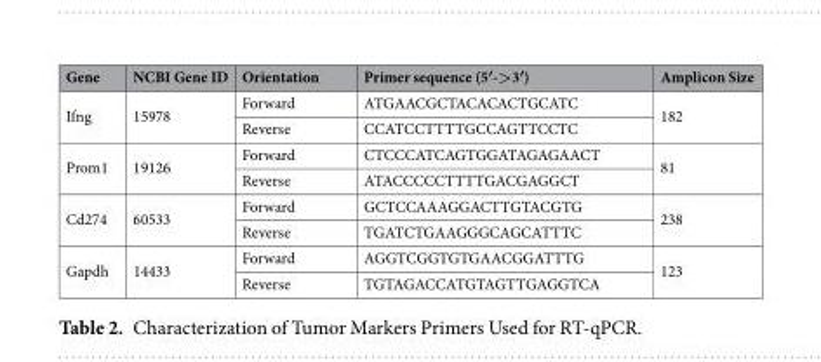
<table><thead><tr><td>Gene</td><td>NCBI Gene ID</td><td>Orientation</td><td>Primer sequence (5′-&gt;3′)</td><td>Amplicon Size</td></tr></thead><tbody><tr><td rowspan="2">Ifng</td><td rowspan="2">15978</td><td>Forward</td><td>ATGAACGCTACACACTGCATC</td><td rowspan="2">182</td></tr><tr><td>Reverse</td><td>CCATCCTTTTGCCAGTTCCTC</td></tr><tr><td rowspan="2">Prom1</td><td rowspan="2">19126</td><td>Forward</td><td>CTCCCATCAGTGGATAGAGAACT</td><td rowspan="2">81</td></tr><tr><td>Reverse</td><td>ATACCCCCTTTTGACGAGGCT</td></tr><tr><td rowspan="2">Cd274</td><td rowspan="2">60533</td><td>Forward</td><td>GCTCCAAAGGACTTGTACGTG</td><td rowspan="2">238</td></tr><tr><td>Reverse</td><td>TGATCTGAAGGGCAGCATTTC</td></tr><tr><td rowspan="2">Gapdh</td><td rowspan="2">14433</td><td>Forward</td><td>AGGTCGGTGTGAACGGATTTG</td><td rowspan="2">123</td></tr><tr><td>Reverse</td><td>TGTAGACCATGTAGTTGAGGTCA</td></tr></tbody></table>